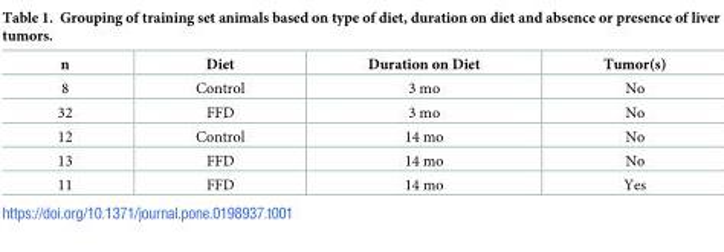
<table><thead><tr><td>n</td><td>Diet</td><td>Duration on Diet</td><td>Tumor(s)</td></tr></thead><tbody><tr><td>8</td><td>Control</td><td>3 mo</td><td>No</td></tr><tr><td>32</td><td>FFD</td><td>3 mo</td><td>No</td></tr><tr><td>12</td><td>Control</td><td>14 mo</td><td>No</td></tr><tr><td>13</td><td>FFD</td><td>14 mo</td><td>No</td></tr><tr><td>11</td><td>FFD</td><td>14 mo</td><td>Yes</td></tr></tbody></table>